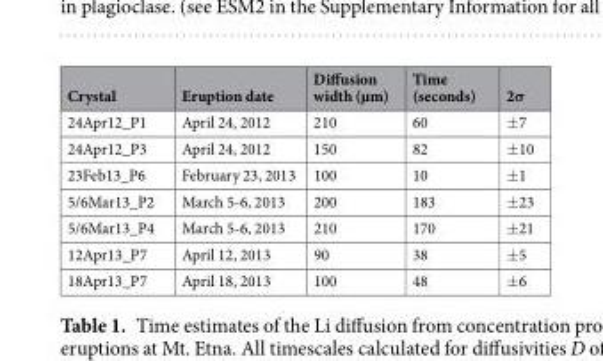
<table><thead><tr><td>Crystal</td><td>Eruption date</td><td>Diffusion width (µm)</td><td>Time (seconds)</td><td>2σ</td></tr></thead><tbody><tr><td>24Apr12_P1</td><td>April 24, 2012</td><td>210</td><td>60</td><td>±7</td></tr><tr><td>24Apr12_P3</td><td>April 24, 2012</td><td>150</td><td>82</td><td>±10</td></tr><tr><td>23Feb13_P6</td><td>February 23, 2013</td><td>100</td><td>10</td><td>±1</td></tr><tr><td>5/6Mar13_P2</td><td>March 5-6, 2013</td><td>200</td><td>183</td><td>±23</td></tr><tr><td>5/6Mar13_P4</td><td>March 5-6, 2013</td><td>210</td><td>170</td><td>±21</td></tr><tr><td>12Apr13_P7</td><td>April 12, 2013</td><td>90</td><td>38</td><td>±5</td></tr><tr><td>18Apr13_P7</td><td>April 18, 2013</td><td>100</td><td>48</td><td>±6</td></tr></tbody></table>